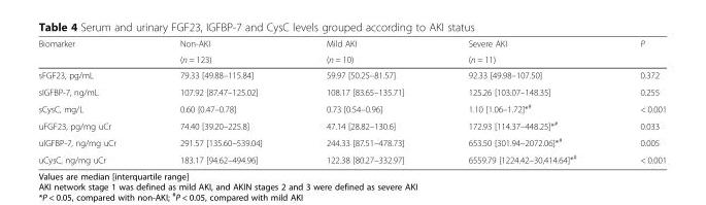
<table><thead><tr><td rowspan="2">Biomarker</td><td rowspan="2">Non-AKI (n = 123)</td><td rowspan="2">Mild AKI (n = 10)</td><td rowspan="2">Severe AKI (n = 11)</td><td rowspan="2">P</td></tr><tr></tr></thead><tbody><tr><td>sFGF23, pg/mL</td><td>79.33 [49.88–115.84]</td><td>59.97 [50.25–81.57]</td><td>92.33 [49.98–107.50]</td><td>0.372</td></tr><tr><td>sIGFBP-7, ng/mL</td><td>107.92 [87.47–125.02]</td><td>108.17 [83.65–135.71]</td><td>125.26 [103.07–148.35]</td><td>0.255</td></tr><tr><td>sCysC, mg/L</td><td>0.60 [0.47–0.78]</td><td>0.73 [0.54–0.96]</td><td>1.10 [1.06–1.72]*<sup>#</sup></td><td>&lt; 0.001</td></tr><tr><td>uFGF23, pg/mg uCr</td><td>74.40 [39.20–225.8]</td><td>47.14 [28.82–130.6]</td><td>172.93 [114.37–448.25]*<sup>#</sup></td><td>0.033</td></tr><tr><td>uIGFBP-7, ng/mg uCr</td><td>291.57 [135.60–539.04]</td><td>244.33 [87.51–478.73]</td><td>653.50 [301.94–2072.06]*<sup>#</sup></td><td>0.005</td></tr><tr><td>uCysC, ng/mg uCr</td><td>183.17 [94.62–494.96]</td><td>122.38 [80.27–332.97]</td><td>6559.79 [1224.42–30,414.64]*<sup>#</sup></td><td>&lt; 0.001</td></tr></tbody></table>